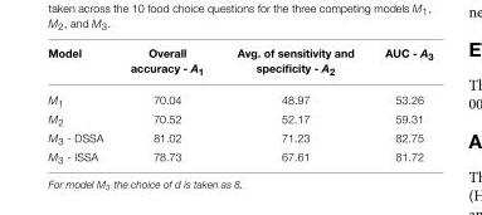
<table><thead><tr><td>Model</td><td>Overall accuracy - A<sub>1</sub></td><td>Avg. of sensitivity and specificity - A<sub>2</sub></td><td>AUC - A<sub>3</sub></td></tr></thead><tbody><tr><td>M<sub>1</sub></td><td>70.04</td><td>48.97</td><td>53.26</td></tr><tr><td>M<sub>2</sub></td><td>70.52</td><td>52.17</td><td>59.31</td></tr><tr><td>M<sub>3</sub> - DSSA</td><td>81.02</td><td>71.23</td><td>82.75</td></tr><tr><td>M<sub>3</sub> - ISSA</td><td>78.73</td><td>67.61</td><td>81.72</td></tr></tbody></table>